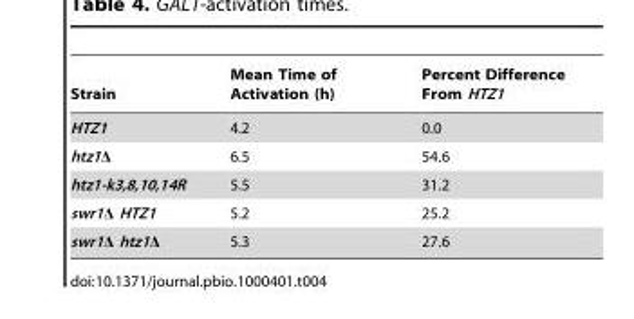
<table><thead><tr><td>Strain</td><td>Mean Time of Activation (h)</td><td>Percent Difference From HTZ1</td></tr></thead><tbody><tr><td>HTZ1</td><td>4.2</td><td>0.0</td></tr><tr><td>htz1Δ</td><td>6.5</td><td>54.6</td></tr><tr><td>htz1-k3,8,10,14R</td><td>5.5</td><td>31.2</td></tr><tr><td>swr1Δ HTZ1</td><td>5.2</td><td>25.2</td></tr><tr><td>swr1Δ htz1Δ</td><td>5.3</td><td>27.6</td></tr></tbody></table>